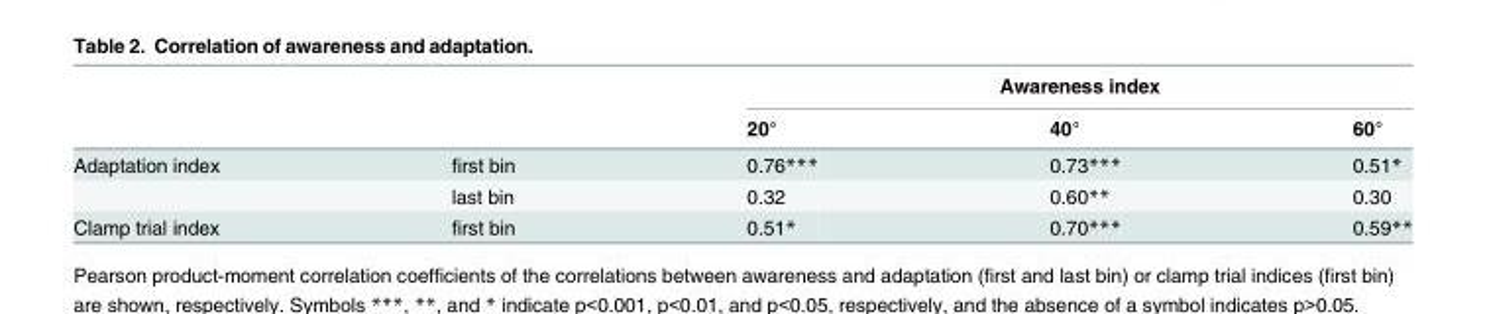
<table><thead><tr><td rowspan="2"></td><td rowspan="2"></td><td colspan="3">Awareness index</td></tr><tr><td>20°</td><td>40°</td><td>60°</td></tr></thead><tbody><tr><td rowspan="2">Adaptation index</td><td>first bin</td><td>0.76***</td><td>0.73***</td><td>0.51*</td></tr><tr><td>last bin</td><td>0.32</td><td>0.60**</td><td>0.30</td></tr><tr><td>Clamp trial index</td><td>first bin</td><td>0.51*</td><td>0.70***</td><td>0.59**</td></tr></tbody></table>